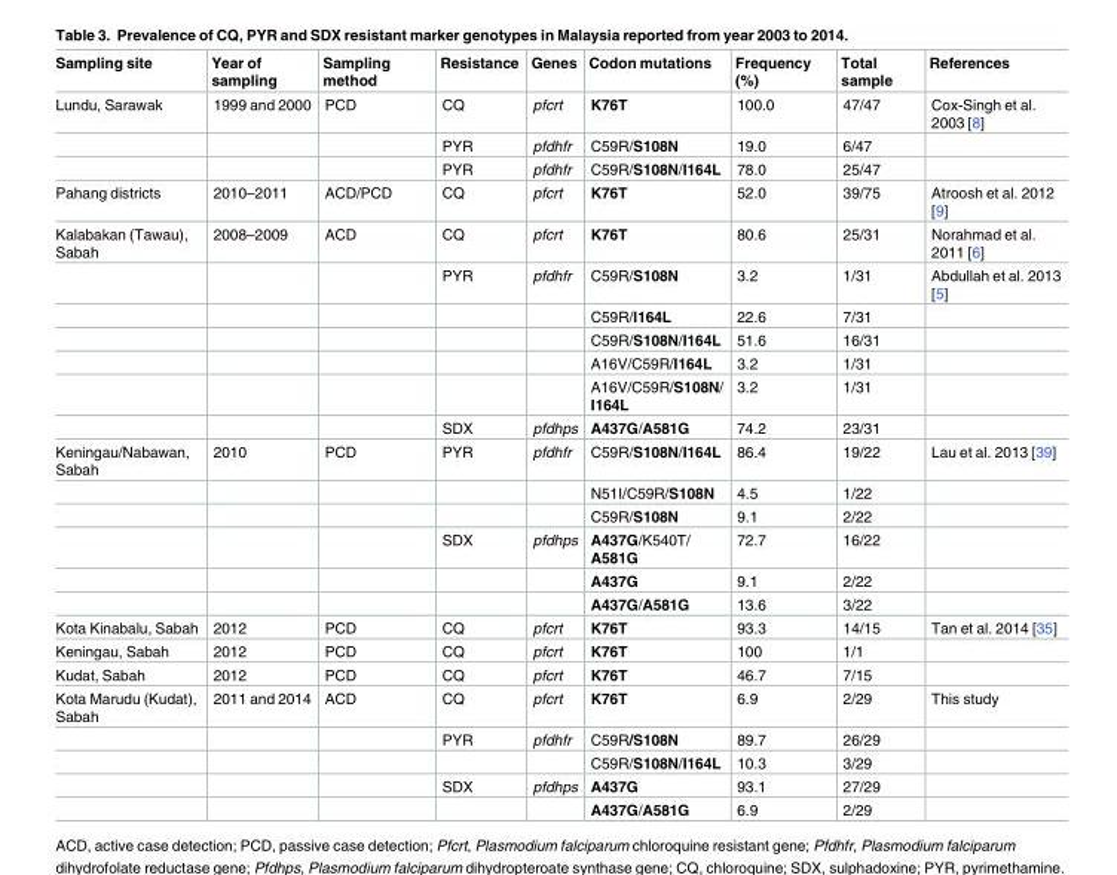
<table><thead><tr><td>Sampling site</td><td>Year of sampling</td><td>Sampling method</td><td>Resistance</td><td>Genes</td><td>Codon mutations</td><td>Frequency (%)</td><td>Total sample</td><td>References</td></tr></thead><tbody><tr><td rowspan="3">Lundu, Sarawak</td><td>1999 and 2000</td><td>PCD</td><td>CQ</td><td>pfcrt</td><td>K76T</td><td>100.0</td><td>47/47</td><td>Cox-Singh et al. 2003 [8]</td></tr><tr><td></td><td></td><td>PYR</td><td>pfdhfr</td><td>C59R/S108N</td><td>19.0</td><td>6/47</td><td></td></tr><tr><td></td><td></td><td>PYR</td><td>pfdhfr</td><td>C59R/S108N/I164L</td><td>78.0</td><td>25/47</td><td></td></tr><tr><td>Pahang districts</td><td>2010–2011</td><td>ACD/PCD</td><td>CQ</td><td>pfcrt</td><td>K76T</td><td>52.0</td><td>39/75</td><td>Atroosh et al. 2012 [9]</td></tr><tr><td rowspan="7">Kalabakan (Tawau), Sabah</td><td>2008–2009</td><td>ACD</td><td>CQ</td><td>pfcrt</td><td>K76T</td><td>80.6</td><td>25/31</td><td>Norahmad et al. 2011 [6]</td></tr><tr><td></td><td></td><td>PYR</td><td>pfdhfr</td><td>C59R/S108N</td><td>3.2</td><td>1/31</td><td>Abdullah et al. 2013 [5]</td></tr><tr><td></td><td></td><td></td><td></td><td>C59R/I164L</td><td>22.6</td><td>7/31</td><td></td></tr><tr><td></td><td></td><td></td><td></td><td>C59R/S108N/I164L</td><td>51.6</td><td>16/31</td><td></td></tr><tr><td></td><td></td><td></td><td></td><td>A16V/C59R/I164L</td><td>3.2</td><td>1/31</td><td></td></tr><tr><td></td><td></td><td></td><td></td><td>A16V/C59R/S108N/ I164L</td><td>3.2</td><td>1/31</td><td></td></tr><tr><td></td><td></td><td>SDX</td><td>pfdhps</td><td>A437G/A581G</td><td>74.2</td><td>23/31</td><td></td></tr><tr><td rowspan="6">Keningau/Nabawan, Sabah</td><td>2010</td><td>PCD</td><td>PYR</td><td>pfdhfr</td><td>C59R/S108N/I164L</td><td>86.4</td><td>19/22</td><td>Lau et al. 2013 [39]</td></tr><tr><td></td><td></td><td></td><td></td><td>N51I/C59R/S108N</td><td>4.5</td><td>1/22</td><td></td></tr><tr><td></td><td></td><td></td><td></td><td>C59R/S108N</td><td>9.1</td><td>2/22</td><td></td></tr><tr><td></td><td></td><td>SDX</td><td>pfdhps</td><td>A437G/K540T/ A581G</td><td>72.7</td><td>16/22</td><td></td></tr><tr><td></td><td></td><td></td><td></td><td>A437G</td><td>9.1</td><td>2/22</td><td></td></tr><tr><td></td><td></td><td></td><td></td><td>A437G/A581G</td><td>13.6</td><td>3/22</td><td></td></tr><tr><td>Kota Kinabalu, Sabah</td><td>2012</td><td>PCD</td><td>CQ</td><td>pfcrt</td><td>K76T</td><td>93.3</td><td>14/15</td><td>Tan et al. 2014 [35]</td></tr><tr><td>Keningau, Sabah</td><td>2012</td><td>PCD</td><td>CQ</td><td>pfcrt</td><td>K76T</td><td>100</td><td>1/1</td><td></td></tr><tr><td>Kudat, Sabah</td><td>2012</td><td>PCD</td><td>CQ</td><td>pfcrt</td><td>K76T</td><td>46.7</td><td>7/15</td><td></td></tr><tr><td rowspan="5">Kota Marudu (Kudat), Sabah</td><td>2011 and 2014</td><td>ACD</td><td>CQ</td><td>pfcrt</td><td>K76T</td><td>6.9</td><td>2/29</td><td>This study</td></tr><tr><td></td><td></td><td>PYR</td><td>pfdhfr</td><td>C59R/S108N</td><td>89.7</td><td>26/29</td><td></td></tr><tr><td></td><td></td><td></td><td></td><td>C59R/S108N/I164L</td><td>10.3</td><td>3/29</td><td></td></tr><tr><td></td><td></td><td>SDX</td><td>pfdhps</td><td>A437G</td><td>93.1</td><td>27/29</td><td></td></tr><tr><td></td><td></td><td></td><td></td><td>A437G/A581G</td><td>6.9</td><td>2/29</td><td></td></tr></tbody></table>